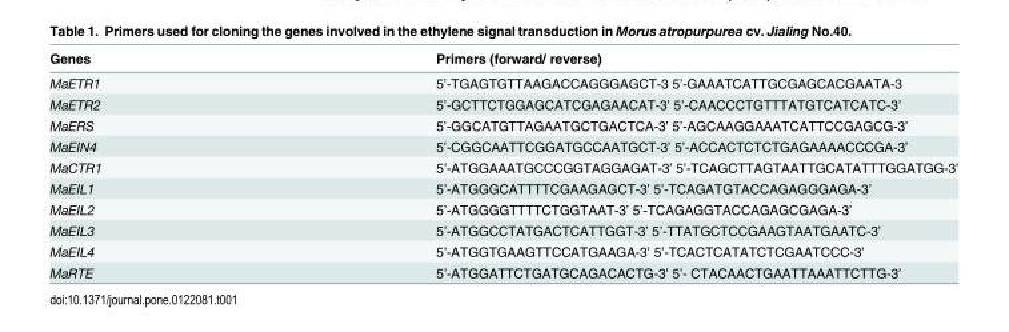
<table><thead><tr><td>Genes</td><td>Primers (forward/ reverse)</td></tr></thead><tbody><tr><td>MaETR1</td><td>5’-TGAGTGTTAAGACCAGGGAGCT-3 5’-GAAATCATTGCGAGCACGAATA-3</td></tr><tr><td>MaETR2</td><td>5’-GCTTCTGGAGCATCGAGAACAT-3’ 5’-CAACCCTGTTTATGTCATCATC-3’</td></tr><tr><td>MaERS</td><td>5’-GGCATGTTAGAATGCTGACTCA-3’ 5’-AGCAAGGAAATCATTCCGAGCG-3’</td></tr><tr><td>MaEIN4</td><td>5’-CGGCAATTCGGATGCCAATGCT-3’ 5’-ACCACTCTCTGAGAAAACCCGA-3’</td></tr><tr><td>MaCTR1</td><td>5’-ATGGAAATGCCCGGTAGGAGAT-3’ 5’-TCAGCTTAGTAATTGCATATTTGGATGG-3’</td></tr><tr><td>MaEIL1</td><td>5’-ATGGGCATTTTCGAAGAGCT-3’ 5’-TCAGATGTACCAGAGGGAGA-3’</td></tr><tr><td>MaEIL2</td><td>5’-ATGGGGTTTTCTGGTAAT-3’ 5’-TCAGAGGTACCAGAGCGAGA-3’</td></tr><tr><td>MaEIL3</td><td>5’-ATGGCCTATGACTCATTGGT-3’ 5’-TTATGCTCCGAAGTAATGAATC-3’</td></tr><tr><td>MaEIL4</td><td>5’-ATGGTGAAGTTCCATGAAGA-3’ 5’-TCACTCATATCTCGAATCCC-3’</td></tr><tr><td>MaRTE</td><td>5’-ATGGATTCTGATGCAGACACTG-3’ 5’- CTACAACTGAATTAAATTCTTG-3’</td></tr></tbody></table>